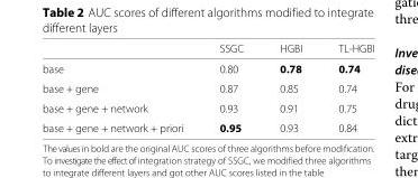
<table><thead><tr><td></td><td>SSGC</td><td>HGBI</td><td>TL-HGBI</td></tr></thead><tbody><tr><td>base</td><td>0.80</td><td>0.78</td><td>0.74</td></tr><tr><td>base + gene</td><td>0.87</td><td>0.85</td><td>0.74</td></tr><tr><td>base + gene + network</td><td>0.93</td><td>0.91</td><td>0.75</td></tr><tr><td>base + gene + network + priori</td><td>0.95</td><td>0.93</td><td>0.84</td></tr></tbody></table>